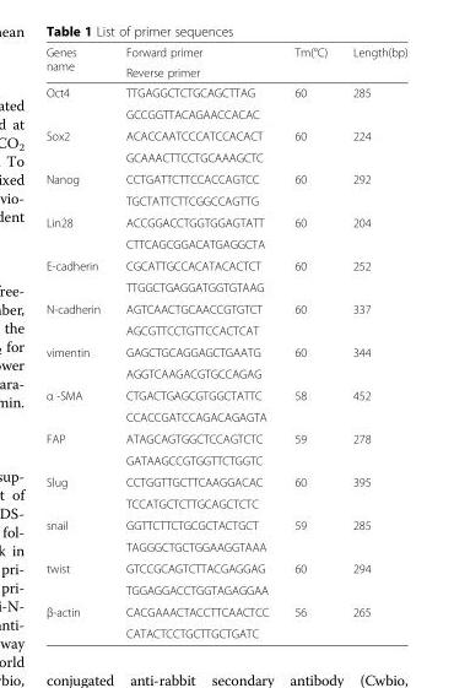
<table><thead><tr><td rowspan="2">Genes name</td><td rowspan="2">Forward primer Reverse primer</td><td rowspan="2">Tm(°C)</td><td rowspan="2">Length(bp)</td></tr><tr></tr></thead><tbody><tr><td rowspan="2">Oct4</td><td>TTGAGGCTCTGCAGCTTAG</td><td rowspan="2">60</td><td rowspan="2">285</td></tr><tr><td>GCCGGTTACAGAACCACAC</td></tr><tr><td rowspan="2">Sox2</td><td>ACACCAATCCCATCCACACT</td><td rowspan="2">60</td><td rowspan="2">224</td></tr><tr><td>GCAAACTTCCTGCAAAGCTC</td></tr><tr><td rowspan="2">Nanog</td><td>CCTGATTCTTCCACCAGTCC</td><td rowspan="2">60</td><td rowspan="2">292</td></tr><tr><td>TGCTATTCTTCGGCCAGTTG</td></tr><tr><td rowspan="2">Lin28</td><td>ACCGGACCTGGTGGAGTATT</td><td rowspan="2">60</td><td rowspan="2">204</td></tr><tr><td>CTTCAGCGGACATGAGGCTA</td></tr><tr><td rowspan="2">E-cadherin</td><td>CGCATTGCCACATACACTCT</td><td rowspan="2">60</td><td rowspan="2">252</td></tr><tr><td>TTGGCTGAGGATGGTGTAAG</td></tr><tr><td rowspan="2">N-cadherin</td><td>AGTCAACTGCAACCGTGTCT</td><td rowspan="2">60</td><td rowspan="2">337</td></tr><tr><td>AGCGTTCCTGTTCCACTCAT</td></tr><tr><td rowspan="2">vimentin</td><td>GAGCTGCAGGAGCTGAATG</td><td rowspan="2">60</td><td rowspan="2">344</td></tr><tr><td>AGGTCAAGACGTGCCAGAG</td></tr><tr><td rowspan="2">α -SMA</td><td>CTGACTGAGCGTGGCTATTC</td><td rowspan="2">58</td><td rowspan="2">452</td></tr><tr><td>CCACCGATCCAGACAGAGTA</td></tr><tr><td rowspan="2">FAP</td><td>ATAGCAGTGGCTCCAGTCTC</td><td rowspan="2">59</td><td rowspan="2">278</td></tr><tr><td>GATAAGCCGTGGTTCTGGTC</td></tr><tr><td rowspan="2">Slug</td><td>CCTGGTTGCTTCAAGGACAC</td><td rowspan="2">60</td><td rowspan="2">395</td></tr><tr><td>TCCATGCTCTTGCAGCTCTC</td></tr><tr><td rowspan="2">snail</td><td>GGTTCTTCTGCGCTACTGCT</td><td rowspan="2">59</td><td rowspan="2">285</td></tr><tr><td>TAGGGCTGCTGGAAGGTAAA</td></tr><tr><td rowspan="2">twist</td><td>GTCCGCAGTCTTACGAGGAG</td><td rowspan="2">60</td><td rowspan="2">294</td></tr><tr><td>TGGAGGACCTGGTAGAGGAA</td></tr><tr><td rowspan="2">β-actin</td><td>CACGAAACTACCTTCAACTCC</td><td rowspan="2">56</td><td rowspan="2">265</td></tr><tr><td>CATACTCCTGCTTGCTGATC</td></tr></tbody></table>